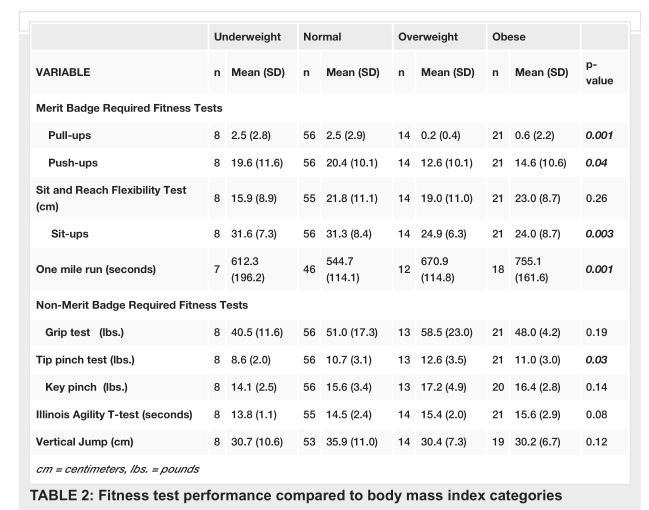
<table><thead><tr><td rowspan="2">VARIABLE</td><td colspan="2">Underweight</td><td colspan="2">Normal</td><td colspan="2">Overweight</td><td colspan="2">Obese</td><td rowspan="2">p- value</td></tr><tr><td>n</td><td>Mean (SD)</td><td>n</td><td>Mean (SD)</td><td>n</td><td>Mean (SD)</td><td>n</td><td>Mean (SD)</td></tr></thead><tbody><tr><td colspan="10">Merit Badge Required Fitness Tests</td></tr><tr><td>Pull-ups</td><td>8</td><td>2.5 (2.8)</td><td>56</td><td>2.5 (2.9)</td><td>14</td><td>0.2 (0.4)</td><td>21</td><td>0.6 (2.2)</td><td>0.001</td></tr><tr><td>Push-ups</td><td>8</td><td>19.6 (11.6)</td><td>56</td><td>20.4 (10.1)</td><td>14</td><td>12.6 (10.1)</td><td>21</td><td>14.6 (10.6)</td><td>0.04</td></tr><tr><td>Sit and Reach Flexibility Test (cm)</td><td>8</td><td>15.9 (8.9)</td><td>55</td><td>21.8 (11.1)</td><td>14</td><td>19.0 (11.0)</td><td>21</td><td>23.0 (8.7)</td><td>0.26</td></tr><tr><td>Sit-ups</td><td>8</td><td>31.6 (7.3)</td><td>56</td><td>31.3 (8.4)</td><td>14</td><td>24.9 (6.3)</td><td>21</td><td>24.0 (8.7)</td><td>0.003</td></tr><tr><td>One mile run (seconds)</td><td>7</td><td>612.3 (196.2)</td><td>46</td><td>544.7 (114.1)</td><td>12</td><td>670.9 (114.8)</td><td>18</td><td>755.1 (161.6)</td><td>0.001</td></tr><tr><td colspan="10">Non-Merit Badge Required Fitness Tests</td></tr><tr><td>Grip test (lbs.)</td><td>8</td><td>40.5 (11.6)</td><td>56</td><td>51.0 (17.3)</td><td>13</td><td>58.5 (23.0)</td><td>21</td><td>48.0 (4.2)</td><td>0.19</td></tr><tr><td>Tip pinch test (lbs.)</td><td>8</td><td>8.6 (2.0)</td><td>56</td><td>10.7 (3.1)</td><td>13</td><td>12.6 (3.5)</td><td>21</td><td>11.0 (3.0)</td><td>0.03</td></tr><tr><td>Key pinch (lbs.)</td><td>8</td><td>14.1 (2.5)</td><td>56</td><td>15.6 (3.4)</td><td>13</td><td>17.2 (4.9)</td><td>20</td><td>16.4 (2.8)</td><td>0.14</td></tr><tr><td>Illinois Agility T-test (seconds)</td><td>8</td><td>13.8 (1.1)</td><td>55</td><td>14.5 (2.4)</td><td>14</td><td>15.4 (2.0)</td><td>21</td><td>15.6 (2.9)</td><td>0.08</td></tr><tr><td>Vertical Jump (cm)</td><td>8</td><td>30.7 (10.6)</td><td>53</td><td>35.9 (11.0)</td><td>14</td><td>30.4 (7.3)</td><td>19</td><td>30.2 (6.7)</td><td>0.12</td></tr><tr><td colspan="10">cm = centimeters, lbs. = pounds</td></tr></tbody></table>